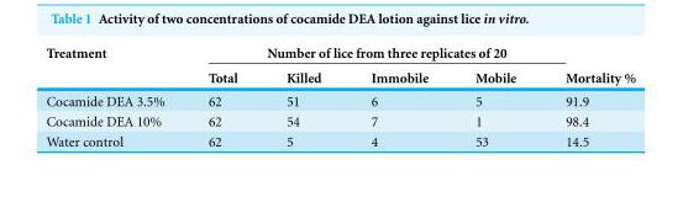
<table><thead><tr><td rowspan="2">Treatment</td><td colspan="4">Number of lice from three replicates of 20</td><td rowspan="2">Mortality %</td></tr><tr><td>Total</td><td>Killed</td><td>Immobile</td><td>Mobile</td></tr></thead><tbody><tr><td>Cocamide DEA 3.5%</td><td>62</td><td>51</td><td>6</td><td>5</td><td>91.9</td></tr><tr><td>Cocamide DEA 10%</td><td>62</td><td>54</td><td>7</td><td>1</td><td>98.4</td></tr><tr><td>Water control</td><td>62</td><td>5</td><td>4</td><td>53</td><td>14.5</td></tr></tbody></table>